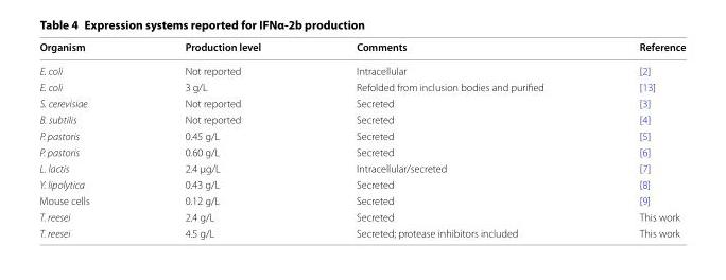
<table><thead><tr><td>Organism</td><td>Production level</td><td>Comments</td><td>Reference</td></tr></thead><tbody><tr><td>E. coli</td><td>Not reported</td><td>Intracellular</td><td>[2]</td></tr><tr><td>E. coli</td><td>3 g/L</td><td>Refolded from inclusion bodies and purified</td><td>[13]</td></tr><tr><td>S. cerevisiae</td><td>Not reported</td><td>Secreted</td><td>[3]</td></tr><tr><td>B. subtilis</td><td>Not reported</td><td>Secreted</td><td>[4]</td></tr><tr><td>P. pastoris</td><td>0.45 g/L</td><td>Secreted</td><td>[5]</td></tr><tr><td>P. pastoris</td><td>0.60 g/L</td><td>Secreted</td><td>[6]</td></tr><tr><td>L. lactis</td><td>2.4 µg/L</td><td>Intracellular/secreted</td><td>[7]</td></tr><tr><td>Y. lipolytica</td><td>0.43 g/L</td><td>Secreted</td><td>[8]</td></tr><tr><td>Mouse cells</td><td>0.12 g/L</td><td>Secreted</td><td>[9]</td></tr><tr><td>T. reesei</td><td>2.4 g/L</td><td>Secreted</td><td>This work</td></tr><tr><td>T. reesei</td><td>4.5 g/L</td><td>Secreted; protease inhibitors included</td><td>This work</td></tr></tbody></table>